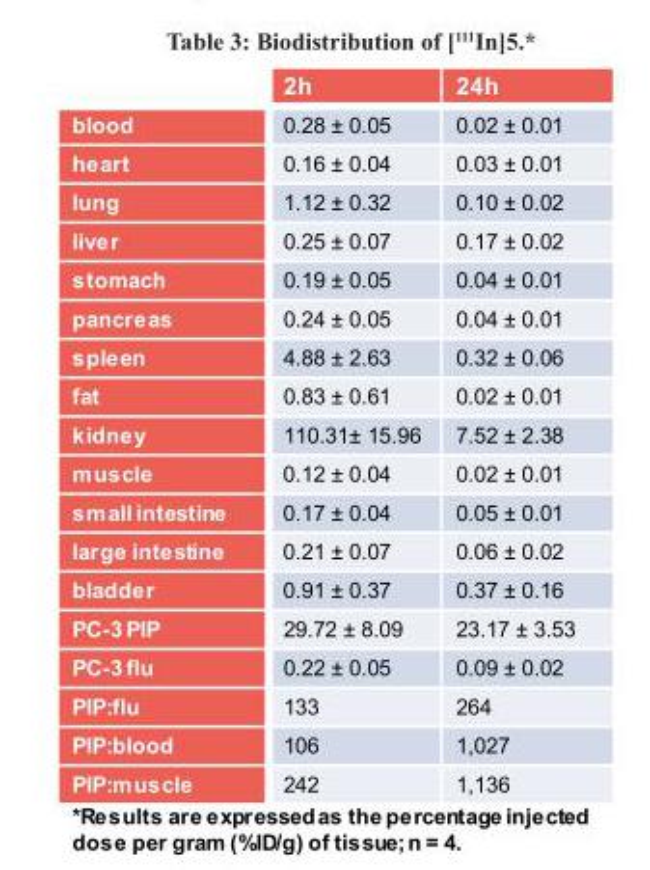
<table><thead><tr><td></td><td>2h</td><td>24h</td></tr></thead><tbody><tr><td>blood</td><td>0.28 ± 0.05</td><td>0.02 ± 0.01</td></tr><tr><td>heart</td><td>0.16 ± 0.04</td><td>0.03 ± 0.01</td></tr><tr><td>lung</td><td>1.12 ± 0.32</td><td>0.10 ± 0.02</td></tr><tr><td>liver</td><td>0.25 ± 0.07</td><td>0.17 ± 0.02</td></tr><tr><td>stomach</td><td>0.19 ± 0.05</td><td>0.04 ± 0.01</td></tr><tr><td>pancreas</td><td>0.24 ± 0.05</td><td>0.04 ± 0.01</td></tr><tr><td>spleen</td><td>4.88 ± 2.63</td><td>0.32 ± 0.06</td></tr><tr><td>fat</td><td>0.83 ± 0.61</td><td>0.02 ± 0.01</td></tr><tr><td>kidney</td><td>110.31± 15.96</td><td>7.52 ± 2.38</td></tr><tr><td>muscle</td><td>0.12 ± 0.04</td><td>0.02 ± 0.01</td></tr><tr><td>small intestine</td><td>0.17 ± 0.04</td><td>0.05 ± 0.01</td></tr><tr><td>large intestine</td><td>0.21 ± 0.07</td><td>0.06 ± 0.02</td></tr><tr><td>bladder</td><td>0.91 ± 0.37</td><td>0.37 ± 0.16</td></tr><tr><td>PC-3 PIP</td><td>29.72 ± 8.09</td><td>23.17 ± 3.53</td></tr><tr><td>PC-3 flu</td><td>0.22 ± 0.05</td><td>0.09 ± 0.02</td></tr><tr><td>PIP:flu</td><td>133</td><td>264</td></tr><tr><td>PIP:blood</td><td>106</td><td>1,027</td></tr><tr><td>PIP:muscle</td><td>242</td><td>1,136</td></tr></tbody></table>